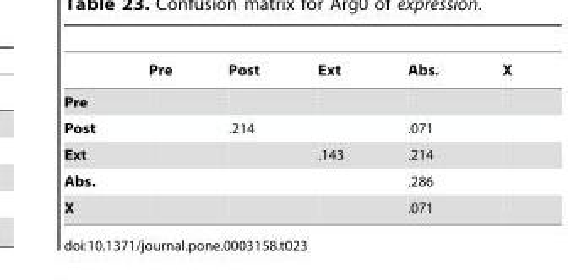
<table><thead><tr><td></td><td>Pre</td><td>Post</td><td>Ext</td><td>Abs.</td><td>X</td></tr></thead><tbody><tr><td colspan="6">Pre</td></tr><tr><td>Post</td><td></td><td>.214</td><td></td><td>.071</td><td></td></tr><tr><td>Ext</td><td></td><td></td><td>.143</td><td>.214</td><td></td></tr><tr><td>Abs.</td><td></td><td></td><td></td><td>.286</td><td></td></tr><tr><td>X</td><td></td><td></td><td></td><td>.071</td><td></td></tr></tbody></table>